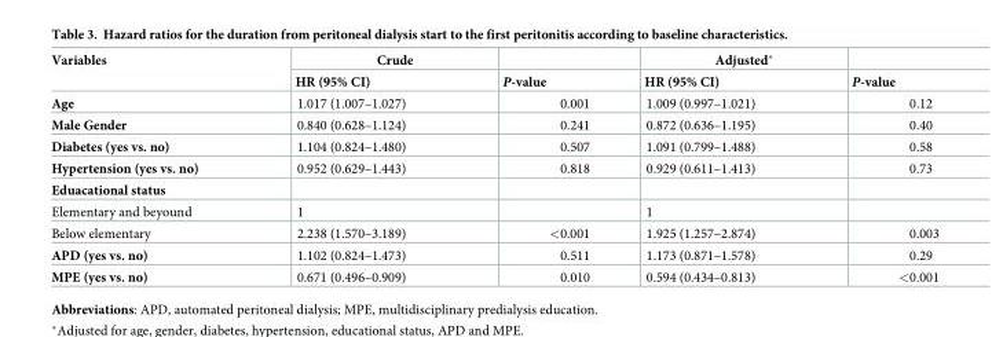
<table><thead><tr><td rowspan="2">Variables</td><td rowspan="2">Crude HR (95% CI)</td><td rowspan="2">P-value</td><td rowspan="2">Adjusted* HR (95% CI)</td><td rowspan="2">P-value</td></tr><tr></tr></thead><tbody><tr><td>Age</td><td>1.017 (1.007–1.027)</td><td>0.001</td><td>1.009 (0.997–1.021)</td><td>0.12</td></tr><tr><td>Male Gender</td><td>0.840 (0.628–1.124)</td><td>0.241</td><td>0.872 (0.636–1.195)</td><td>0.40</td></tr><tr><td>Diabetes (yes vs. no)</td><td>1.104 (0.824–1.480)</td><td>0.507</td><td>1.091 (0.799–1.488)</td><td>0.58</td></tr><tr><td>Hypertension (yes vs. no)</td><td>0.952 (0.629–1.443)</td><td>0.818</td><td>0.929 (0.611–1.413)</td><td>0.73</td></tr><tr><td colspan="5">Eduacational status</td></tr><tr><td>Elementary and beyound</td><td>1</td><td></td><td>1</td><td></td></tr><tr><td>Below elementary</td><td>2.238 (1.570–3.189)</td><td>&lt;0.001</td><td>1.925 (1.257–2.874)</td><td>0.003</td></tr><tr><td>APD (yes vs. no)</td><td>1.102 (0.824–1.473)</td><td>0.511</td><td>1.173 (0.871–1.578)</td><td>0.29</td></tr><tr><td>MPE (yes vs. no)</td><td>0.671 (0.496–0.909)</td><td>0.010</td><td>0.594 (0.434–0.813)</td><td>&lt;0.001</td></tr></tbody></table>